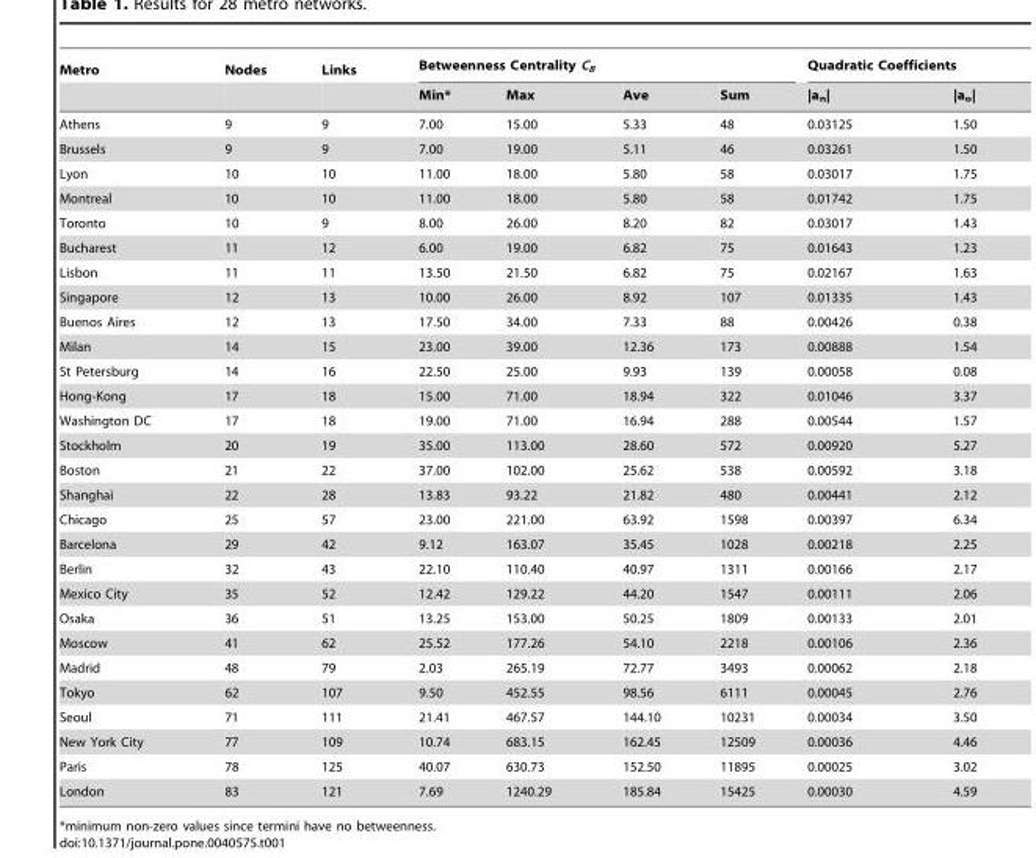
<table><thead><tr><td rowspan="2">Metro</td><td rowspan="2">Nodes</td><td rowspan="2">Links</td><td colspan="4">Betweenness Centrality C<sub>B</sub></td><td colspan="2">Quadratic Coefficients</td></tr><tr><td>Min*</td><td>Max</td><td>Ave</td><td>Sum</td><td>|a<sub>n</sub>|</td><td>|a<sub>o</sub>|</td></tr></thead><tbody><tr><td>Athens</td><td>9</td><td>9</td><td>7.00</td><td>15.00</td><td>5.33</td><td>48</td><td>0.03125</td><td>1.50</td></tr><tr><td>Brussels</td><td>9</td><td>9</td><td>7.00</td><td>19.00</td><td>5.11</td><td>46</td><td>0.03261</td><td>1.50</td></tr><tr><td>Lyon</td><td>10</td><td>10</td><td>11.00</td><td>18.00</td><td>5.80</td><td>58</td><td>0.03017</td><td>1.75</td></tr><tr><td>Montreal</td><td>10</td><td>10</td><td>11.00</td><td>18.00</td><td>5.80</td><td>58</td><td>0.01742</td><td>1.75</td></tr><tr><td>Toronto</td><td>10</td><td>9</td><td>8.00</td><td>26.00</td><td>8.20</td><td>82</td><td>0.03017</td><td>1.43</td></tr><tr><td>Bucharest</td><td>11</td><td>12</td><td>6.00</td><td>19.00</td><td>6.82</td><td>75</td><td>0.01643</td><td>1.23</td></tr><tr><td>Lisbon</td><td>11</td><td>11</td><td>13.50</td><td>21.50</td><td>6.82</td><td>75</td><td>0.02167</td><td>1.63</td></tr><tr><td>Singapore</td><td>12</td><td>13</td><td>10.00</td><td>26.00</td><td>8.92</td><td>107</td><td>0.01335</td><td>1.43</td></tr><tr><td>Buenos Aires</td><td>12</td><td>13</td><td>17.50</td><td>34.00</td><td>7.33</td><td>88</td><td>0.00426</td><td>0.38</td></tr><tr><td>Milan</td><td>14</td><td>15</td><td>23.00</td><td>39.00</td><td>12.36</td><td>173</td><td>0.00888</td><td>1.54</td></tr><tr><td>St Petersburg</td><td>14</td><td>16</td><td>22.50</td><td>25.00</td><td>9.93</td><td>139</td><td>0.00058</td><td>0.08</td></tr><tr><td>Hong-Kong</td><td>17</td><td>18</td><td>15.00</td><td>71.00</td><td>18.94</td><td>322</td><td>0.01046</td><td>3.37</td></tr><tr><td>Washington DC</td><td>17</td><td>18</td><td>19.00</td><td>71.00</td><td>16.94</td><td>288</td><td>0.00544</td><td>1.57</td></tr><tr><td>Stockholm</td><td>20</td><td>19</td><td>35.00</td><td>113.00</td><td>28.60</td><td>572</td><td>0.00920</td><td>5.27</td></tr><tr><td>Boston</td><td>21</td><td>22</td><td>37.00</td><td>102.00</td><td>25.62</td><td>538</td><td>0.00592</td><td>3.18</td></tr><tr><td>Shanghai</td><td>22</td><td>28</td><td>13.83</td><td>93.22</td><td>21.82</td><td>480</td><td>0.00441</td><td>2.12</td></tr><tr><td>Chicago</td><td>25</td><td>57</td><td>23.00</td><td>221.00</td><td>63.92</td><td>1598</td><td>0.00397</td><td>6.34</td></tr><tr><td>Barcelona</td><td>29</td><td>42</td><td>9.12</td><td>163.07</td><td>35.45</td><td>1028</td><td>0.00218</td><td>2.25</td></tr><tr><td>Berlin</td><td>32</td><td>43</td><td>22.10</td><td>110.40</td><td>40.97</td><td>1311</td><td>0.00166</td><td>2.17</td></tr><tr><td>Mexico City</td><td>35</td><td>52</td><td>12.42</td><td>129.22</td><td>44.20</td><td>1547</td><td>0.00111</td><td>2.06</td></tr><tr><td>Osaka</td><td>36</td><td>51</td><td>13.25</td><td>153.00</td><td>50.25</td><td>1809</td><td>0.00133</td><td>2.01</td></tr><tr><td>Moscow</td><td>41</td><td>62</td><td>25.52</td><td>177.26</td><td>54.10</td><td>2218</td><td>0.00106</td><td>2.36</td></tr><tr><td>Madrid</td><td>48</td><td>79</td><td>2.03</td><td>265.19</td><td>72.77</td><td>3493</td><td>0.00062</td><td>2.18</td></tr><tr><td>Tokyo</td><td>62</td><td>107</td><td>9.50</td><td>452.55</td><td>98.56</td><td>6111</td><td>0.00045</td><td>2.76</td></tr><tr><td>Seoul</td><td>71</td><td>111</td><td>21.41</td><td>467.57</td><td>144.10</td><td>10231</td><td>0.00034</td><td>3.50</td></tr><tr><td>New York City</td><td>77</td><td>109</td><td>10.74</td><td>683.15</td><td>162.45</td><td>12509</td><td>0.00036</td><td>4.46</td></tr><tr><td>Paris</td><td>78</td><td>125</td><td>40.07</td><td>630.73</td><td>152.50</td><td>11895</td><td>0.00025</td><td>3.02</td></tr><tr><td>London</td><td>83</td><td>121</td><td>7.69</td><td>1240.29</td><td>185.84</td><td>15425</td><td>0.00030</td><td>4.59</td></tr></tbody></table>